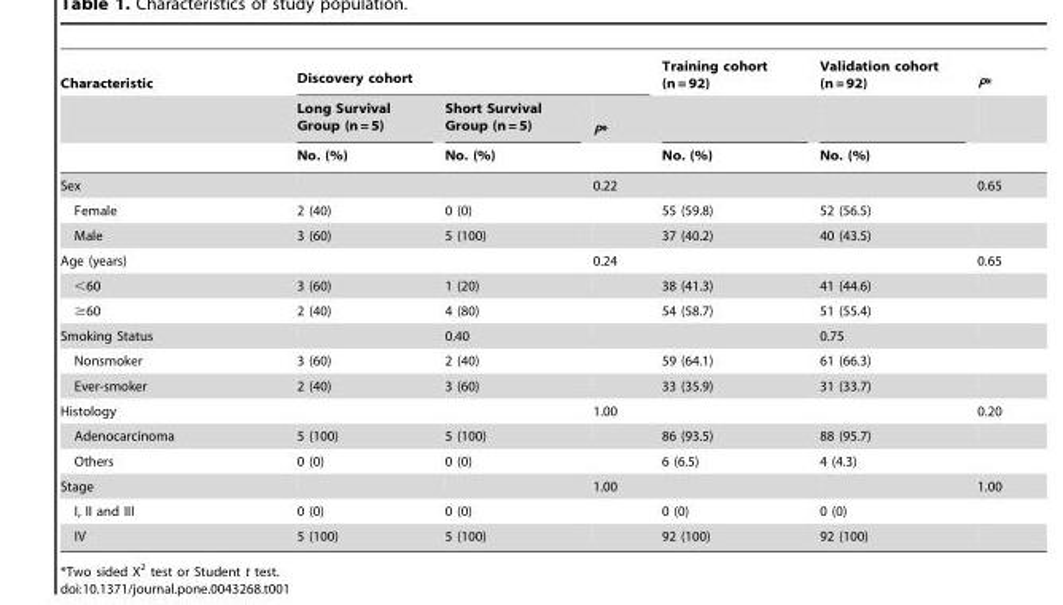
<table><thead><tr><td rowspan="3">Characteristic</td><td colspan="3">Discovery cohort</td><td rowspan="3">Training cohort (n = 92) No. (%)</td><td rowspan="3">Validation cohort (n = 92) No. (%)</td><td rowspan="3">P*</td></tr><tr><td rowspan="2">Long Survival Group (n = 5) No. (%)</td><td rowspan="2">Short Survival Group (n = 5) No. (%)</td><td rowspan="2">P*</td></tr><tr></tr></thead><tbody><tr><td>Sex</td><td colspan="2"></td><td>0.22</td><td colspan="2"></td><td>0.65</td></tr><tr><td>Female</td><td>2 (40)</td><td>0 (0)</td><td></td><td>55 (59.8)</td><td>52 (56.5)</td><td></td></tr><tr><td>Male</td><td>3 (60)</td><td>5 (100)</td><td></td><td>37 (40.2)</td><td>40 (43.5)</td><td></td></tr><tr><td>Age (years)</td><td></td><td></td><td>0.24</td><td></td><td></td><td>0.65</td></tr><tr><td>&lt;60</td><td>3 (60)</td><td>1 (20)</td><td></td><td>38 (41.3)</td><td>41 (44.6)</td><td></td></tr><tr><td>≥60</td><td>2 (40)</td><td>4 (80)</td><td></td><td>54 (58.7)</td><td>51 (55.4)</td><td></td></tr><tr><td>Smoking Status</td><td></td><td>0.40</td><td></td><td></td><td>0.75</td><td></td></tr><tr><td>Nonsmoker</td><td>3 (60)</td><td>2 (40)</td><td></td><td>59 (64.1)</td><td>61 (66.3)</td><td></td></tr><tr><td>Ever-smoker</td><td>2 (40)</td><td>3 (60)</td><td></td><td>33 (35.9)</td><td>31 (33.7)</td><td></td></tr><tr><td>Histology</td><td></td><td></td><td>1.00</td><td></td><td></td><td>0.20</td></tr><tr><td>Adenocarcinoma</td><td>5 (100)</td><td>5 (100)</td><td></td><td>86 (93.5)</td><td>88 (95.7)</td><td></td></tr><tr><td>Others</td><td>0 (0)</td><td>0 (0)</td><td></td><td>6 (6.5)</td><td>4 (4.3)</td><td></td></tr><tr><td>Stage</td><td></td><td></td><td>1.00</td><td></td><td></td><td>1.00</td></tr><tr><td>I, II and III</td><td>0 (0)</td><td>0 (0)</td><td></td><td>0 (0)</td><td>0 (0)</td><td></td></tr><tr><td>IV</td><td>5 (100)</td><td>5 (100)</td><td></td><td>92 (100)</td><td>92 (100)</td><td></td></tr></tbody></table>